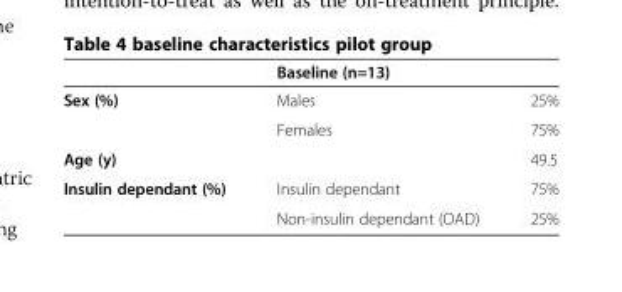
<table><thead><tr><td></td><td>Baseline (n=13)</td><td></td></tr></thead><tbody><tr><td rowspan="2">Sex (%)</td><td>Males</td><td>25%</td></tr><tr><td>Females</td><td>75%</td></tr><tr><td>Age (y)</td><td></td><td>49.5</td></tr><tr><td rowspan="2">Insulin dependant (%)</td><td>Insulin dependant</td><td>75%</td></tr><tr><td>Non-insulin dependant (OAD)</td><td>25%</td></tr></tbody></table>